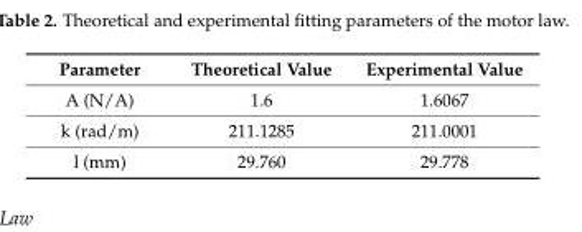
<table><thead><tr><td>Parameter</td><td>Theoretical Value</td><td>Experimental Value</td></tr></thead><tbody><tr><td>A (N/A)</td><td>1.6</td><td>1.6067</td></tr><tr><td>k (rad/m)</td><td>211.1285</td><td>211.0001</td></tr><tr><td>l (mm)</td><td>29.760</td><td>29.778</td></tr></tbody></table>